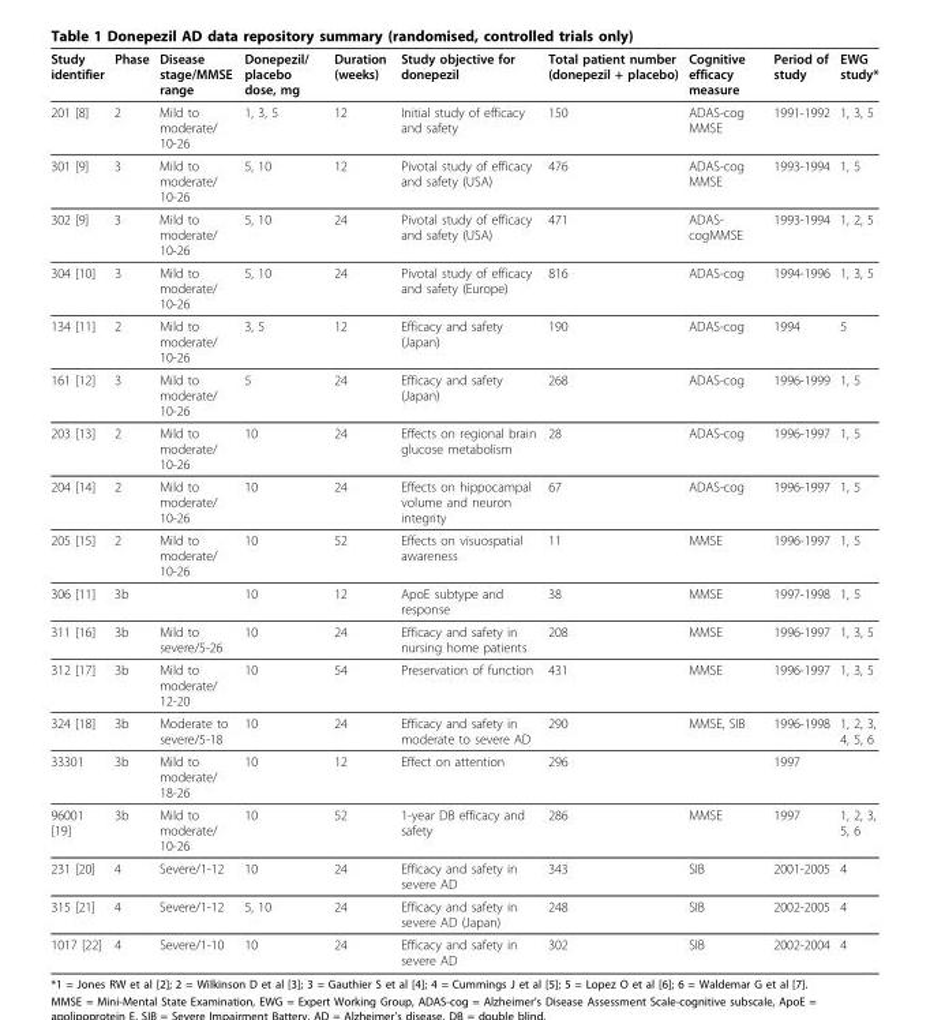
<table><thead><tr><td>Study identifier</td><td>Phase</td><td>Disease stage/MMSE range</td><td>Donepezil/ placebo dose, mg</td><td>Duration (weeks)</td><td>Study objective for donepezil</td><td>Total patient number (donepezil + placebo)</td><td>Cognitive efficacy measure</td><td>Period of study</td><td>EWG study*</td></tr></thead><tbody><tr><td>201 [8]</td><td>2</td><td>Mild to moderate/ 10-26</td><td>1, 3, 5</td><td>12</td><td>Initial study of efficacy and safety</td><td>150</td><td>ADAS-cog MMSE</td><td>1991-1992</td><td>1, 3, 5</td></tr><tr><td>301 [9]</td><td>3</td><td>Mild to moderate/ 10-26</td><td>5, 10</td><td>12</td><td>Pivotal study of efficacy and safety (USA)</td><td>476</td><td>ADAS-cog MMSE</td><td>1993-1994</td><td>1, 5</td></tr><tr><td>302 [9]</td><td>3</td><td>Mild to moderate/ 10-26</td><td>5, 10</td><td>24</td><td>Pivotal study of efficacy and safety (USA)</td><td>471</td><td>ADAS- cogMMSE</td><td>1993-1994</td><td>1, 2, 5</td></tr><tr><td>304 [10]</td><td>3</td><td>Mild to moderate/ 10-26</td><td>5, 10</td><td>24</td><td>Pivotal study of efficacy and safety (Europe)</td><td>816</td><td>ADAS-cog</td><td>1994-1996</td><td>1, 3, 5</td></tr><tr><td>134 [11]</td><td>2</td><td>Mild to moderate/ 10-26</td><td>3, 5</td><td>12</td><td>Efficacy and safety (Japan)</td><td>190</td><td>ADAS-cog</td><td>1994</td><td>5</td></tr><tr><td>161 [12]</td><td>3</td><td>Mild to moderate/ 10-26</td><td>5</td><td>24</td><td>Efficacy and safety (Japan)</td><td>268</td><td>ADAS-cog</td><td>1996-1999</td><td>1, 5</td></tr><tr><td>203 [13]</td><td>2</td><td>Mild to moderate/ 10-26</td><td>10</td><td>24</td><td>Effects on regional brain glucose metabolism</td><td>28</td><td>ADAS-cog</td><td>1996-1997</td><td>1, 5</td></tr><tr><td>204 [14]</td><td>2</td><td>Mild to moderate/ 10-26</td><td>10</td><td>24</td><td>Effects on hippocampal volume and neuron integrity</td><td>67</td><td>ADAS-cog</td><td>1996-1997</td><td>1, 5</td></tr><tr><td>205 [15]</td><td>2</td><td>Mild to moderate/ 10-26</td><td>10</td><td>52</td><td>Effects on visuospatial awareness</td><td>11</td><td>MMSE</td><td>1996-1997</td><td>1, 5</td></tr><tr><td>306 [11]</td><td>3b</td><td></td><td>10</td><td>12</td><td>ApoE subtype and response</td><td>38</td><td>MMSE</td><td>1997-1998</td><td>1, 5</td></tr><tr><td>311 [16]</td><td>3b</td><td>Mild to severe/5-26</td><td>10</td><td>24</td><td>Efficacy and safety in nursing home patients</td><td>208</td><td>MMSE</td><td>1996-1997</td><td>1, 3, 5</td></tr><tr><td>312 [17]</td><td>3b</td><td>Mild to moderate/ 12-20</td><td>10</td><td>54</td><td>Preservation of function</td><td>431</td><td>MMSE</td><td>1996-1997</td><td>1, 3, 5</td></tr><tr><td>324 [18]</td><td>3b</td><td>Moderate to severe/5-18</td><td>10</td><td>24</td><td>Efficacy and safety in moderate to severe AD</td><td>290</td><td>MMSE, SIB</td><td>1996-1998</td><td>1, 2, 3, 4, 5, 6</td></tr><tr><td>33301</td><td>3b</td><td>Mild to moderate/ 18-26</td><td>10</td><td>12</td><td>Effect on attention</td><td>296</td><td></td><td>1997</td><td></td></tr><tr><td>96001 [19]</td><td>3b</td><td>Mild to moderate/ 10-26</td><td>10</td><td>52</td><td>1-year DB efficacy and safety</td><td>286</td><td>MMSE</td><td>1997</td><td>1, 2, 3, 5, 6</td></tr><tr><td>231 [20]</td><td>4</td><td>Severe/1-12</td><td>10</td><td>24</td><td>Efficacy and safety in severe AD</td><td>343</td><td>SIB</td><td>2001-2005</td><td>4</td></tr><tr><td>315 [21]</td><td>4</td><td>Severe/1-12</td><td>5, 10</td><td>24</td><td>Efficacy and safety in severe AD (Japan)</td><td>248</td><td>SIB</td><td>2002-2005</td><td>4</td></tr><tr><td>1017 [22]</td><td>4</td><td>Severe/1-10</td><td>10</td><td>24</td><td>Efficacy and safety in severe AD</td><td>302</td><td>SIB</td><td>2002-2004</td><td>4</td></tr></tbody></table>